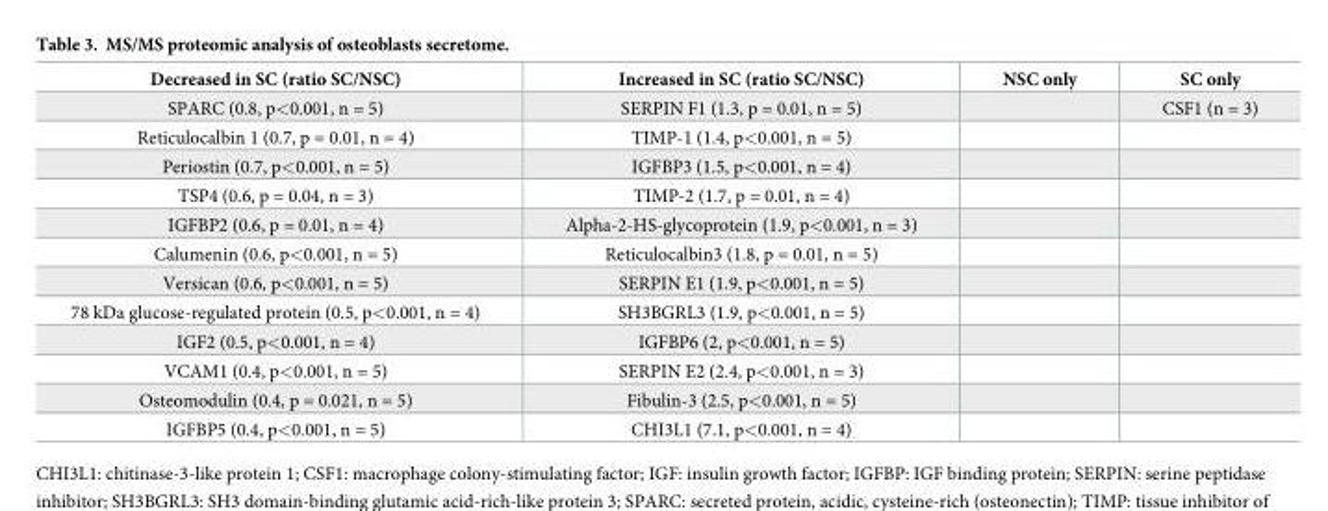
<table><thead><tr><td>Decreased in SC (ratio SC/NSC)</td><td>Increased in SC (ratio SC/NSC)</td><td>NSC only</td><td>SC only</td></tr></thead><tbody><tr><td>SPARC (0.8, p&lt;0.001, n = 5)</td><td>SERPIN F1 (1.3, p = 0.01, n = 5)</td><td></td><td>CSF1 (n = 3)</td></tr><tr><td>Reticulocalbin 1 (0.7, p = 0.01, n = 4)</td><td>TIMP-1 (1.4, p&lt;0.001, n = 5)</td><td></td><td></td></tr><tr><td>Periostin (0.7, p&lt;0.001, n = 5)</td><td>IGFBP3 (1.5, p&lt;0.001, n = 4)</td><td></td><td></td></tr><tr><td>TSP4 (0.6, p = 0.04, n = 3)</td><td>TIMP-2 (1.7, p = 0.01, n = 4)</td><td></td><td></td></tr><tr><td>IGFBP2 (0.6, p = 0.01, n = 4)</td><td>Alpha-2-HS-glycoprotein (1.9, p&lt;0.001, n = 3)</td><td></td><td></td></tr><tr><td>Calumenin (0.6, p&lt;0.001, n = 5)</td><td>Reticulocalbin3 (1.8, p = 0.01, n = 5)</td><td></td><td></td></tr><tr><td>Versican (0.6, p&lt;0.001, n = 5)</td><td>SERPIN E1 (1.9, p&lt;0.001, n = 5)</td><td></td><td></td></tr><tr><td>78 kDa glucose-regulated protein (0.5, p&lt;0.001, n = 4)</td><td>SH3BGRL3 (1.9, p&lt;0.001, n = 5)</td><td></td><td></td></tr><tr><td>IGF2 (0.5, p&lt;0.001, n = 4)</td><td>IGFBP6 (2, p&lt;0.001, n = 5)</td><td></td><td></td></tr><tr><td>VCAM1 (0.4, p&lt;0.001, n = 5)</td><td>SERPIN E2 (2.4, p&lt;0.001, n = 3)</td><td></td><td></td></tr><tr><td>Osteomodulin (0.4, p = 0.021, n = 5)</td><td>Fibulin-3 (2.5, p&lt;0.001, n = 5)</td><td></td><td></td></tr><tr><td>IGFBP5 (0.4, p&lt;0.001, n = 5)</td><td>CHI3L1 (7.1, p&lt;0.001, n = 4)</td><td></td><td></td></tr></tbody></table>